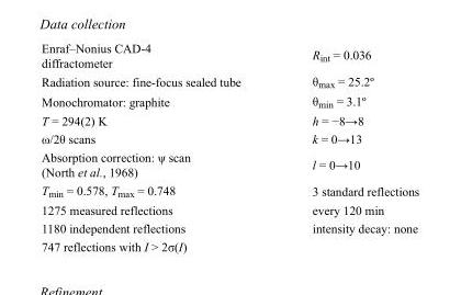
<table><tbody><tr><td>Enraf–Nonius CAD-4 diffractometer</td><td>R<sub>int</sub> = 0.036</td></tr><tr><td>Radiation source: fine-focus sealed tube</td><td>θ<sub>max</sub> = 25.2º</td></tr><tr><td>Monochromator: graphite</td><td>θ<sub>min</sub> = 3.1º</td></tr><tr><td>T = 294(2) K</td><td>h = −8→8</td></tr><tr><td>ω/2θ scans</td><td>k = 0→13</td></tr><tr><td>Absorption correction: ψ scan (North et al., 1968)</td><td>l = 0→10</td></tr><tr><td>T<sub>min</sub> = 0.578, T<sub>max</sub> = 0.748</td><td>3 standard reflections</td></tr><tr><td>1275 measured reflections</td><td>every 120 min</td></tr><tr><td>1180 independent reflections</td><td>intensity decay: none</td></tr><tr><td>747 reflections with I &gt; 2σ(I)</td><td></td></tr></tbody></table>